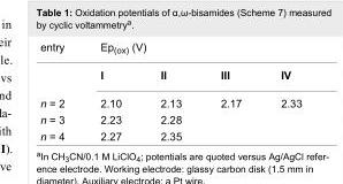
<table><tbody><tr><td rowspan="2">entry</td><td colspan="4">Ep<sub>(ox)</sub> (V)</td></tr><tr><td>I</td><td>II</td><td>III</td><td>IV</td></tr><tr><td>n = 2</td><td>2.10</td><td>2.13</td><td>2.17</td><td>2.33</td></tr><tr><td>n = 3</td><td>2.23</td><td>2.28</td><td></td><td></td></tr><tr><td>n = 4</td><td>2.27</td><td>2.35</td><td></td><td></td></tr></tbody></table>